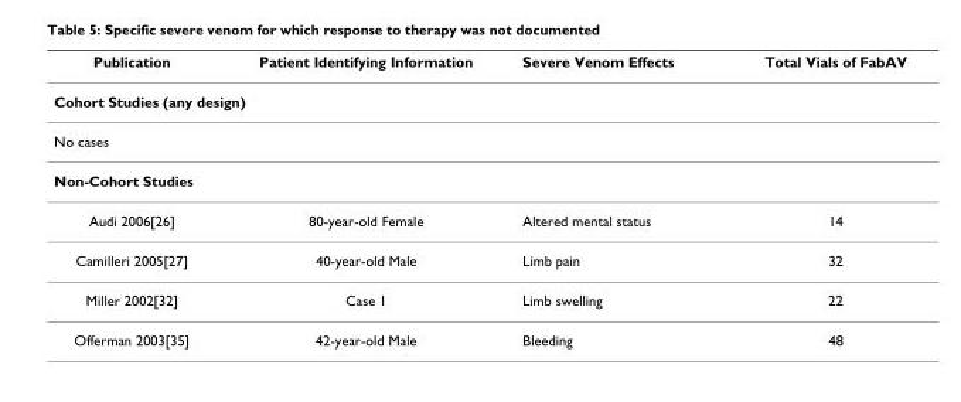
<table><thead><tr><td>Publication</td><td>Patient Identifying Information</td><td>Severe Venom Effects</td><td>Total Vials of FabAV</td></tr></thead><tbody><tr><td colspan="4">Cohort Studies (any design)</td></tr><tr><td colspan="4">No cases</td></tr><tr><td colspan="4">Non-Cohort Studies</td></tr><tr><td>Audi 2006[26]</td><td>80-year-old Female</td><td>Altered mental status</td><td>14</td></tr><tr><td>Camilleri 2005[27]</td><td>40-year-old Male</td><td>Limb pain</td><td>32</td></tr><tr><td>Miller 2002[32]</td><td>Case 1</td><td>Limb swelling</td><td>22</td></tr><tr><td>Offerman 2003[35]</td><td>42-year-old Male</td><td>Bleeding</td><td>48</td></tr></tbody></table>